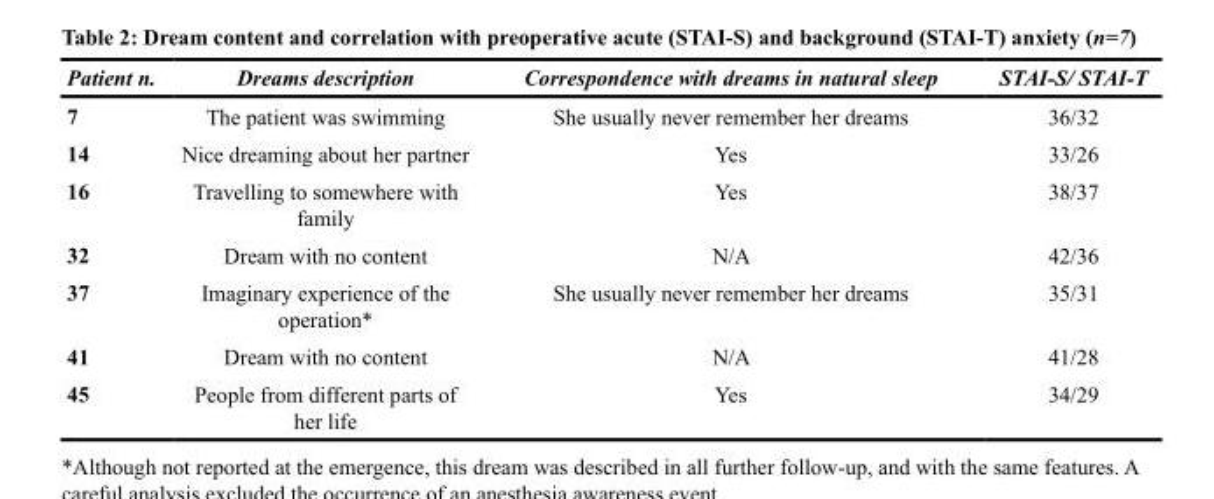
<table><thead><tr><td>Patient n.</td><td>Dreams description</td><td>Correspondence with dreams in natural sleep</td><td>STAI-S/ STAI-T</td></tr></thead><tbody><tr><td>7</td><td>The patient was swimming</td><td>She usually never remember her dreams</td><td>36/32</td></tr><tr><td>14</td><td>Nice dreaming about her partner</td><td>Yes</td><td>33/26</td></tr><tr><td>16</td><td>Travelling to somewhere with family</td><td>Yes</td><td>38/37</td></tr><tr><td>32</td><td>Dream with no content</td><td>N/A</td><td>42/36</td></tr><tr><td>37</td><td>Imaginary experience of the operation*</td><td>She usually never remember her dreams</td><td>35/31</td></tr><tr><td>41</td><td>Dream with no content</td><td>N/A</td><td>41/28</td></tr><tr><td>45</td><td>People from different parts of her life</td><td>Yes</td><td>34/29</td></tr></tbody></table>